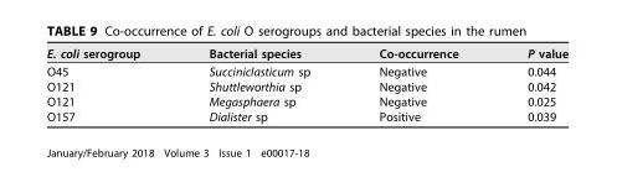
<table><thead><tr><td>E. coli serogroup</td><td>Bacterial species</td><td>Co-occurrence</td><td>P value</td></tr></thead><tbody><tr><td>O45</td><td>Succiniclasticum sp</td><td>Negative</td><td>0.044</td></tr><tr><td>O121</td><td>Shuttleworthia sp</td><td>Negative</td><td>0.042</td></tr><tr><td>O121</td><td>Megasphaera sp</td><td>Negative</td><td>0.025</td></tr><tr><td>O157</td><td>Dialister sp</td><td>Positive</td><td>0.039</td></tr></tbody></table>